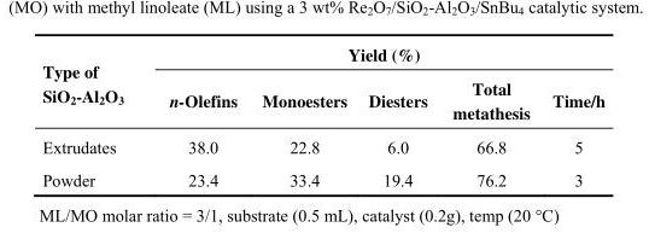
<table><thead><tr><td rowspan="2">Type of SiO<sub>2</sub>-Al<sub>2</sub>O<sub>3</sub></td><td colspan="5">Yield (%)</td></tr><tr><td>n-Olefins</td><td>Monoesters</td><td>Diesters</td><td>Total metathesis</td><td>Time/h</td></tr></thead><tbody><tr><td>Extrudates</td><td>38.0</td><td>22.8</td><td>6.0</td><td>66.8</td><td>5</td></tr><tr><td>Powder</td><td>23.4</td><td>33.4</td><td>19.4</td><td>76.2</td><td>3</td></tr></tbody></table>